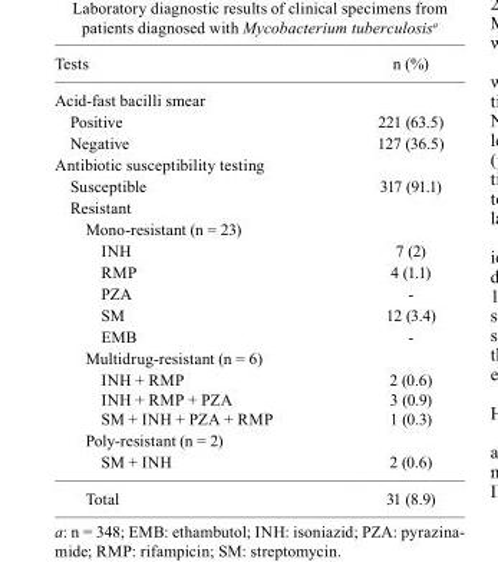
<table><thead><tr><td>Tests</td><td>n (%)</td></tr></thead><tbody><tr><td colspan="2">Acid-fast bacilli smear</td></tr><tr><td>Positive</td><td>221 (63.5)</td></tr><tr><td>Negative</td><td>127 (36.5)</td></tr><tr><td colspan="2">Antibiotic susceptibility testing</td></tr><tr><td>Susceptible</td><td>317 (91.1)</td></tr><tr><td colspan="2">Resistant</td></tr><tr><td colspan="2">Mono-resistant (n = 23)</td></tr><tr><td>INH</td><td>7 (2)</td></tr><tr><td>RMP</td><td>4 (1.1)</td></tr><tr><td>PZA</td><td>-</td></tr><tr><td>SM</td><td>12 (3.4)</td></tr><tr><td>EMB</td><td>-</td></tr><tr><td colspan="2">Multidrug-resistant (n = 6)</td></tr><tr><td>INH + RMP INH + RMP + PZA SM + INH + PZA + RMP</td><td>2 (0.6) 3 (0.9) 1 (0.3)</td></tr><tr><td colspan="2">Poly-resistant (n = 2)</td></tr><tr><td>SM + INH</td><td>2 (0.6)</td></tr><tr><td>Total</td><td>31 (8.9)</td></tr></tbody></table>